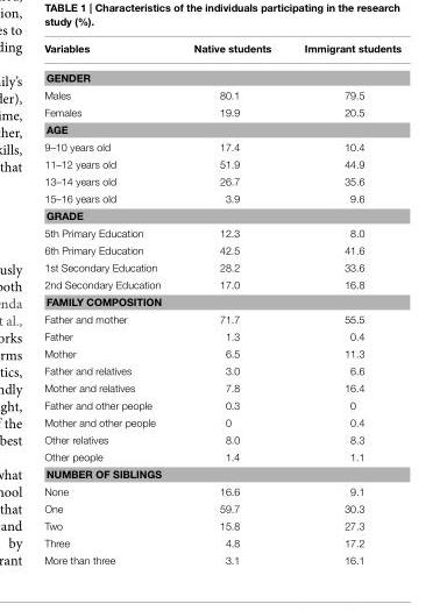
<table><thead><tr><td>Variables</td><td>Native students</td><td>Immigrant students</td></tr></thead><tbody><tr><td colspan="3">GENDER</td></tr><tr><td>Males</td><td>80.1</td><td>79.5</td></tr><tr><td>Females</td><td>19.9</td><td>20.5</td></tr><tr><td colspan="3">AGE</td></tr><tr><td>9–10 years old</td><td>17.4</td><td>10.4</td></tr><tr><td>11–12 years old</td><td>51.9</td><td>44.9</td></tr><tr><td>13–14 years old</td><td>26.7</td><td>35.6</td></tr><tr><td>15–16 years old</td><td>3.9</td><td>9.6</td></tr><tr><td colspan="3">GRADE</td></tr><tr><td>5th Primary Education</td><td>12.3</td><td>8.0</td></tr><tr><td>6th Primary Education</td><td>42.5</td><td>41.6</td></tr><tr><td>1st Secondary Education</td><td>28.2</td><td>33.6</td></tr><tr><td>2nd Secondary Education</td><td>17.0</td><td>16.8</td></tr><tr><td colspan="3">FAMILY COMPOSITION</td></tr><tr><td>Father and mother</td><td>71.7</td><td>55.5</td></tr><tr><td>Father</td><td>1.3</td><td>0.4</td></tr><tr><td>Mother</td><td>6.5</td><td>11.3</td></tr><tr><td>Father and relatives</td><td>3.0</td><td>6.6</td></tr><tr><td>Mother and relatives</td><td>7.8</td><td>16.4</td></tr><tr><td>Father and other people</td><td>0.3</td><td>0</td></tr><tr><td>Mother and other people</td><td>0</td><td>0.4</td></tr><tr><td>Other relatives</td><td>8.0</td><td>8.3</td></tr><tr><td>Other people</td><td>1.4</td><td>1.1</td></tr><tr><td colspan="3">NUMBER OF SIBLINGS</td></tr><tr><td>None</td><td>16.6</td><td>9.1</td></tr><tr><td>One</td><td>59.7</td><td>30.3</td></tr><tr><td>Two</td><td>15.8</td><td>27.3</td></tr><tr><td>Three</td><td>4.8</td><td>17.2</td></tr><tr><td>More than three</td><td>3.1</td><td>16.1</td></tr></tbody></table>